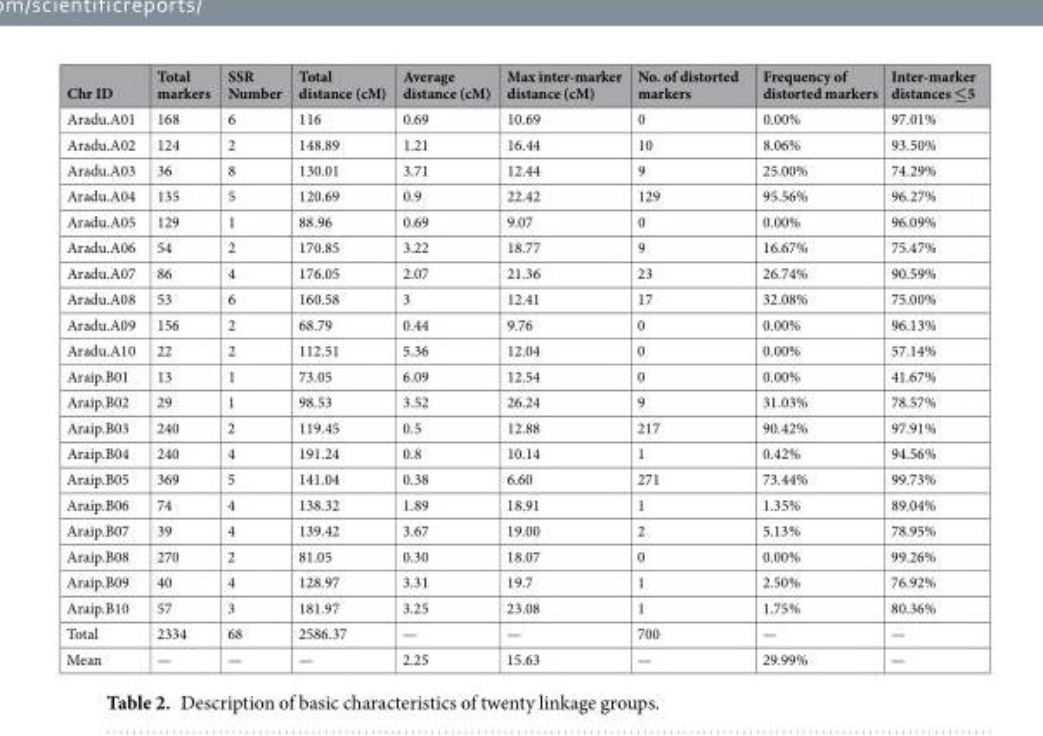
<table><thead><tr><td>Chr ID</td><td>Total markers</td><td>SSR Number</td><td>Total distance (cM)</td><td>Average distance (cM)</td><td>Max inter-marker distance (cM)</td><td>No. of distorted markers</td><td>Frequency of distorted markers</td><td>Inter-marker distances ≤5</td></tr></thead><tbody><tr><td>Aradu.A01</td><td>168</td><td>6</td><td>116</td><td>0.69</td><td>10.69</td><td>0</td><td>0.00%</td><td>97.01%</td></tr><tr><td>Aradu.A02</td><td>124</td><td>2</td><td>148.89</td><td>1.21</td><td>16.44</td><td>10</td><td>8.06%</td><td>93.50%</td></tr><tr><td>Aradu.A03</td><td>36</td><td>8</td><td>130.01</td><td>3.71</td><td>12.44</td><td>9</td><td>25.00%</td><td>74.29%</td></tr><tr><td>Aradu.A04</td><td>135</td><td>5</td><td>120.69</td><td>0.9</td><td>22.42</td><td>129</td><td>95.56%</td><td>96.27%</td></tr><tr><td>Aradu.A05</td><td>129</td><td>1</td><td>88.96</td><td>0.69</td><td>9.07</td><td>0</td><td>0.00%</td><td>96.09%</td></tr><tr><td>Aradu.A06</td><td>54</td><td>2</td><td>170.85</td><td>3.22</td><td>18.77</td><td>9</td><td>16.67%</td><td>75.47%</td></tr><tr><td>Aradu.A07</td><td>86</td><td>4</td><td>176.05</td><td>2.07</td><td>21.36</td><td>23</td><td>26.74%</td><td>90.59%</td></tr><tr><td>Aradu.A08</td><td>53</td><td>6</td><td>160.58</td><td>3</td><td>12.41</td><td>17</td><td>32.08%</td><td>75.00%</td></tr><tr><td>Aradu.A09</td><td>156</td><td>2</td><td>68.79</td><td>0.44</td><td>9.76</td><td>0</td><td>0.00%</td><td>96.13%</td></tr><tr><td>Aradu.A10</td><td>22</td><td>2</td><td>112.51</td><td>5.36</td><td>12.04</td><td>0</td><td>0.00%</td><td>57.14%</td></tr><tr><td>Araip.B01</td><td>13</td><td>1</td><td>73.05</td><td>6.09</td><td>12.54</td><td>0</td><td>0.00%</td><td>41.67%</td></tr><tr><td>Araip.B02</td><td>29</td><td>1</td><td>98.53</td><td>3.52</td><td>26.24</td><td>9</td><td>31.03%</td><td>78.57%</td></tr><tr><td>Araip.B03</td><td>240</td><td>2</td><td>119.45</td><td>0.5</td><td>12.88</td><td>217</td><td>90.42%</td><td>97.91%</td></tr><tr><td>Araip.B04</td><td>240</td><td>4</td><td>191.24</td><td>0.8</td><td>10.14</td><td>1</td><td>0.42%</td><td>94.56%</td></tr><tr><td>Araip.B05</td><td>369</td><td>5</td><td>141.04</td><td>0.38</td><td>6.60</td><td>271</td><td>73.44%</td><td>99.73%</td></tr><tr><td>Araip.B06</td><td>74</td><td>4</td><td>138.32</td><td>1.89</td><td>18.91</td><td>1</td><td>1.35%</td><td>89.04%</td></tr><tr><td>Araip.B07</td><td>39</td><td>4</td><td>139.42</td><td>3.67</td><td>19.00</td><td>2</td><td>5.13%</td><td>78.95%</td></tr><tr><td>Araip.B08</td><td>270</td><td>2</td><td>81.05</td><td>0.30</td><td>18.07</td><td>0</td><td>0.00%</td><td>99.26%</td></tr><tr><td>Araip.B09</td><td>40</td><td>4</td><td>128.97</td><td>3.31</td><td>19.7</td><td>1</td><td>2.50%</td><td>76.92%</td></tr><tr><td>Araip.B10</td><td>57</td><td>3</td><td>181.97</td><td>3.25</td><td>23.08</td><td>1</td><td>1.75%</td><td>80.36%</td></tr><tr><td>Total</td><td>2334</td><td>68</td><td>2586.37</td><td>—</td><td>—</td><td>700</td><td>—</td><td>—</td></tr><tr><td>Mean</td><td>—</td><td>—</td><td>—</td><td>2.25</td><td>15.63</td><td>—</td><td>29.99%</td><td>—</td></tr></tbody></table>